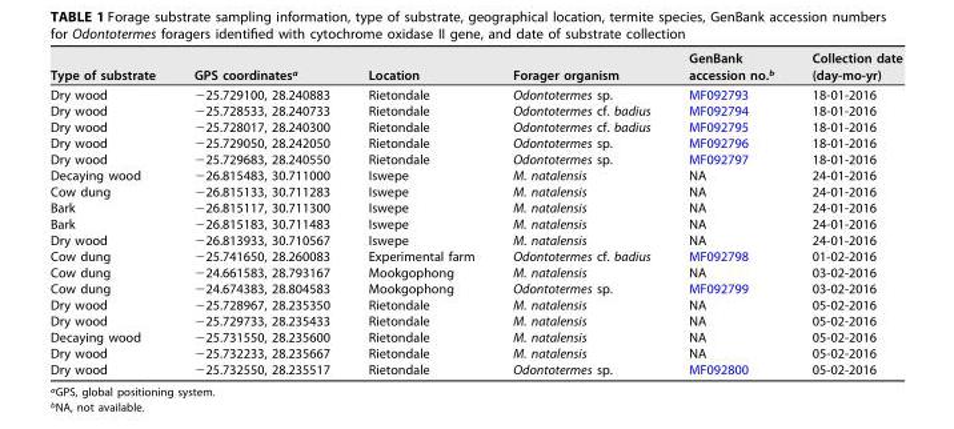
<table><thead><tr><td>Type of substrate</td><td>GPS coordinates<sup>a</sup></td><td>Location</td><td>Forager organism</td><td>GenBank accession no.<sup>b</sup></td><td>Collection date (day-mo-yr)</td></tr></thead><tbody><tr><td>Dry wood</td><td>−25.729100, 28.240883</td><td>Rietondale</td><td>Odontotermes sp.</td><td>MF092793</td><td>18-01-2016</td></tr><tr><td>Dry wood</td><td>−25.728533, 28.240733</td><td>Rietondale</td><td>Odontotermes cf. badius</td><td>MF092794</td><td>18-01-2016</td></tr><tr><td>Dry wood</td><td>−25.728017, 28.240300</td><td>Rietondale</td><td>Odontotermes cf. badius</td><td>MF092795</td><td>18-01-2016</td></tr><tr><td>Dry wood</td><td>−25.729050, 28.242050</td><td>Rietondale</td><td>Odontotermes sp.</td><td>MF092796</td><td>18-01-2016</td></tr><tr><td>Dry wood</td><td>−25.729683, 28.240550</td><td>Rietondale</td><td>Odontotermes sp.</td><td>MF092797</td><td>18-01-2016</td></tr><tr><td>Decaying wood</td><td>−26.815483, 30.711000</td><td>Iswepe</td><td>M. natalensis</td><td>NA</td><td>24-01-2016</td></tr><tr><td>Cow dung</td><td>−26.815133, 30.711283</td><td>Iswepe</td><td>M. natalensis</td><td>NA</td><td>24-01-2016</td></tr><tr><td>Bark</td><td>−26.815117, 30.711300</td><td>Iswepe</td><td>M. natalensis</td><td>NA</td><td>24-01-2016</td></tr><tr><td>Bark</td><td>−26.815183, 30.711483</td><td>Iswepe</td><td>M. natalensis</td><td>NA</td><td>24-01-2016</td></tr><tr><td>Dry wood</td><td>−26.813933, 30.710567</td><td>Iswepe</td><td>M. natalensis</td><td>NA</td><td>24-01-2016</td></tr><tr><td>Cow dung</td><td>−25.741650, 28.260083</td><td>Experimental farm</td><td>Odontotermes cf. badius</td><td>MF092798</td><td>01-02-2016</td></tr><tr><td>Cow dung</td><td>−24.661583, 28.793167</td><td>Mookgophong</td><td>M. natalensis</td><td>NA</td><td>03-02-2016</td></tr><tr><td>Cow dung</td><td>−24.674383, 28.804583</td><td>Mookgophong</td><td>Odontotermes sp.</td><td>MF092799</td><td>03-02-2016</td></tr><tr><td>Dry wood</td><td>−25.728967, 28.235350</td><td>Rietondale</td><td>M. natalensis</td><td>NA</td><td>05-02-2016</td></tr><tr><td>Dry wood</td><td>−25.729733, 28.235433</td><td>Rietondale</td><td>M. natalensis</td><td>NA</td><td>05-02-2016</td></tr><tr><td>Decaying wood</td><td>−25.731550, 28.235600</td><td>Rietondale</td><td>M. natalensis</td><td>NA</td><td>05-02-2016</td></tr><tr><td>Dry wood</td><td>−25.732233, 28.235667</td><td>Rietondale</td><td>M. natalensis</td><td>NA</td><td>05-02-2016</td></tr><tr><td>Dry wood</td><td>−25.732550, 28.235517</td><td>Rietondale</td><td>Odontotermes sp.</td><td>MF092800</td><td>05-02-2016</td></tr></tbody></table>